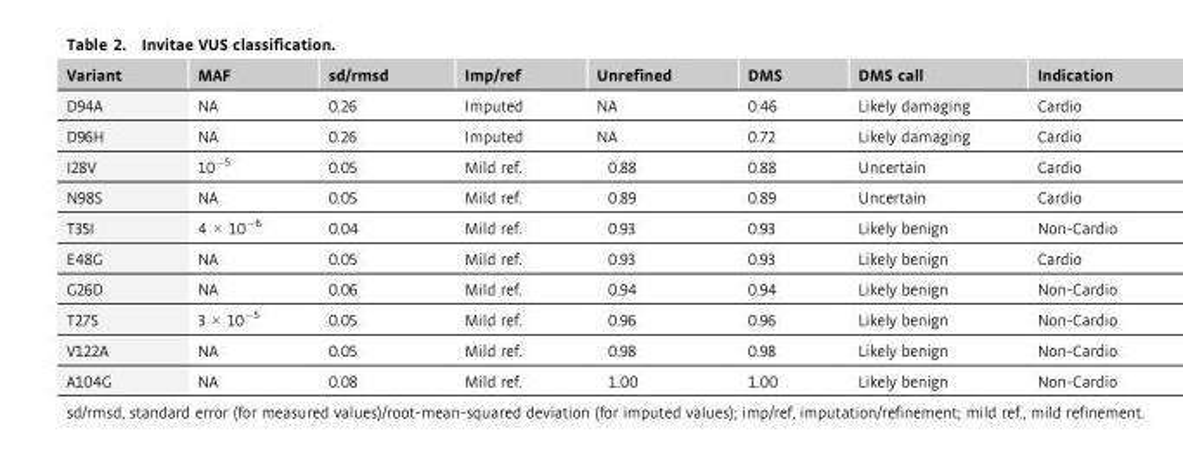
<table><thead><tr><td>Variant</td><td>MAF</td><td>sd/rmsd</td><td>Imp/ref</td><td>Unrefined</td><td>DMS</td><td>DMS call</td><td>Indication</td></tr></thead><tbody><tr><td>D94A</td><td>NA</td><td>0.26</td><td>Imputed</td><td>NA</td><td>0.46</td><td>Likely damaging</td><td>Cardio</td></tr><tr><td>D96H</td><td>NA</td><td>0.26</td><td>Imputed</td><td>NA</td><td>0.72</td><td>Likely damaging</td><td>Cardio</td></tr><tr><td>I28V</td><td>10<sup>−5</sup></td><td>0.05</td><td>Mild ref.</td><td>0.88</td><td>0.88</td><td>Uncertain</td><td>Cardio</td></tr><tr><td>N98S</td><td>NA</td><td>0.05</td><td>Mild ref.</td><td>0.89</td><td>0.89</td><td>Uncertain</td><td>Cardio</td></tr><tr><td>T35I</td><td>4 × 10<sup>−6</sup></td><td>0.04</td><td>Mild ref.</td><td>0.93</td><td>0.93</td><td>Likely benign</td><td>Non-Cardio</td></tr><tr><td>E48G</td><td>NA</td><td>0.05</td><td>Mild ref.</td><td>0.93</td><td>0.93</td><td>Likely benign</td><td>Cardio</td></tr><tr><td>G26D</td><td>NA</td><td>0.06</td><td>Mild ref.</td><td>0.94</td><td>0.94</td><td>Likely benign</td><td>Non-Cardio</td></tr><tr><td>T27S</td><td>3 × 10<sup>−5</sup></td><td>0.05</td><td>Mild ref.</td><td>0.96</td><td>0.96</td><td>Likely benign</td><td>Non-Cardio</td></tr><tr><td>V122A</td><td>NA</td><td>0.05</td><td>Mild ref.</td><td>0.98</td><td>0.98</td><td>Likely benign</td><td>Non-Cardio</td></tr><tr><td>A104G</td><td>NA</td><td>0.08</td><td>Mild ref.</td><td>1.00</td><td>1.00</td><td>Likely benign</td><td>Non-Cardio</td></tr></tbody></table>